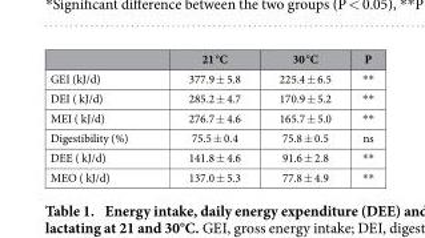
<table><thead><tr><td></td><td>21 °C</td><td>30 °C</td><td>P</td></tr></thead><tbody><tr><td>GEI (kJ/d)</td><td>377.9 ± 5.8</td><td>225.4 ± 6.5</td><td>* *</td></tr><tr><td>DEI ( kJ/d)</td><td>285.2 ± 4.7</td><td>170.9 ± 5.2</td><td>* *</td></tr><tr><td>MEI ( kJ/d)</td><td>276.7 ± 4.6</td><td>165.7 ± 5.0</td><td>* *</td></tr><tr><td>Digestibility (%)</td><td>75.5 ± 0.4</td><td>75.8 ± 0.5</td><td>ns</td></tr><tr><td>DEE ( kJ/d)</td><td>141.8 ± 4.6</td><td>91.6 ± 2.8</td><td>* *</td></tr><tr><td>MEO ( kJ/d)</td><td>137.0 ± 5.3</td><td>77.8 ± 4.9</td><td>* *</td></tr></tbody></table>